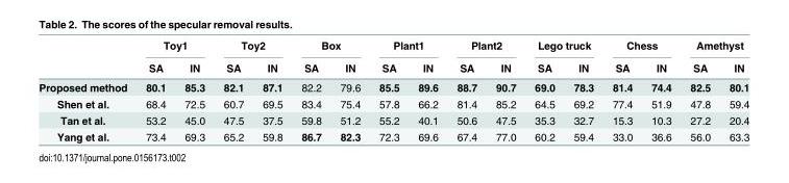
<table><thead><tr><td rowspan="2"></td><td colspan="2">Toy1</td><td colspan="2">Toy2</td><td colspan="2">Box</td><td colspan="2">Plant1</td><td colspan="2">Plant2</td><td colspan="2">Lego truck</td><td colspan="2">Chess</td><td colspan="2">Amethyst</td></tr><tr><td>SA</td><td>IN</td><td>SA</td><td>IN</td><td>SA</td><td>IN</td><td>SA</td><td>IN</td><td>SA</td><td>IN</td><td>SA</td><td>IN</td><td>SA</td><td>IN</td><td>SA</td><td>IN</td></tr></thead><tbody><tr><td>Proposed method</td><td>80.1</td><td>85.3</td><td>82.1</td><td>87.1</td><td>82.2</td><td>79.6</td><td>85.5</td><td>89.6</td><td>88.7</td><td>90.7</td><td>69.0</td><td>78.3</td><td>81.4</td><td>74.4</td><td>82.5</td><td>80.1</td></tr><tr><td>Shen et al.</td><td>68.4</td><td>72.5</td><td>60.7</td><td>69.5</td><td>83.4</td><td>75.4</td><td>57.8</td><td>66.2</td><td>81.4</td><td>85.2</td><td>64.5</td><td>69.2</td><td>77.4</td><td>51.9</td><td>47.8</td><td>59.4</td></tr><tr><td>Tan et al.</td><td>53.2</td><td>45.0</td><td>47.5</td><td>37.5</td><td>59.8</td><td>51.2</td><td>55.2</td><td>40.1</td><td>50.6</td><td>47.5</td><td>35.3</td><td>32.7</td><td>15.3</td><td>10.3</td><td>27.2</td><td>20.4</td></tr><tr><td>Yang et al.</td><td>73.4</td><td>69.3</td><td>65.2</td><td>59.8</td><td>86.7</td><td>82.3</td><td>72.3</td><td>69.6</td><td>67.4</td><td>77.0</td><td>60.2</td><td>59.4</td><td>33.0</td><td>36.6</td><td>56.0</td><td>63.3</td></tr></tbody></table>